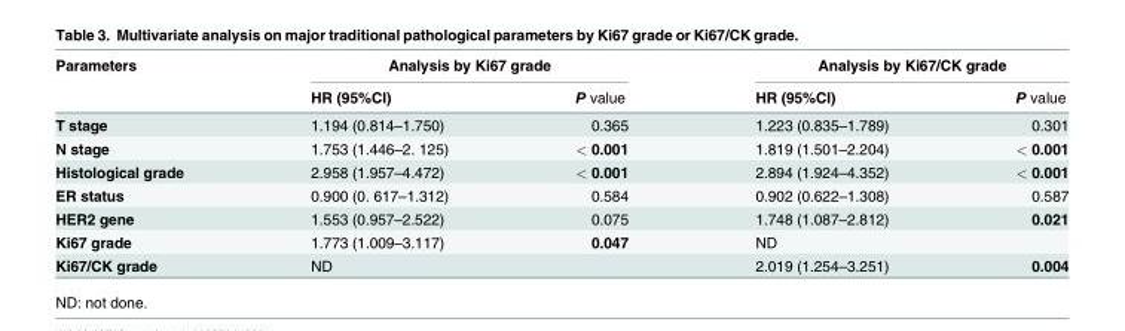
<table><thead><tr><td rowspan="2">Parameters</td><td colspan="2">Analysis by Ki67 grade</td><td colspan="2">Analysis by Ki67/CK grade</td></tr><tr><td>HR (95%CI)</td><td>P value</td><td>HR (95%CI)</td><td>P value</td></tr></thead><tbody><tr><td>T stage</td><td>1.194 (0.814–1.750)</td><td>0.365</td><td>1.223 (0.835–1.789)</td><td>0.301</td></tr><tr><td>N stage</td><td>1.753 (1.446–2. 125)</td><td>&lt; 0.001</td><td>1.819 (1.501–2.204)</td><td>&lt; 0.001</td></tr><tr><td>Histological grade</td><td>2.958 (1.957–4.472)</td><td>&lt; 0.001</td><td>2.894 (1.924–4.352)</td><td>&lt; 0.001</td></tr><tr><td>ER status</td><td>0.900 (0. 617–1.312)</td><td>0.584</td><td>0.902 (0.622–1.308)</td><td>0.587</td></tr><tr><td>HER2 gene</td><td>1.553 (0.957–2.522)</td><td>0.075</td><td>1.748 (1.087–2.812)</td><td>0.021</td></tr><tr><td>Ki67 grade</td><td>1.773 (1.009–3.117)</td><td>0.047</td><td colspan="2">ND</td></tr><tr><td>Ki67/CK grade</td><td colspan="2">ND</td><td>2.019 (1.254–3.251)</td><td>0.004</td></tr></tbody></table>